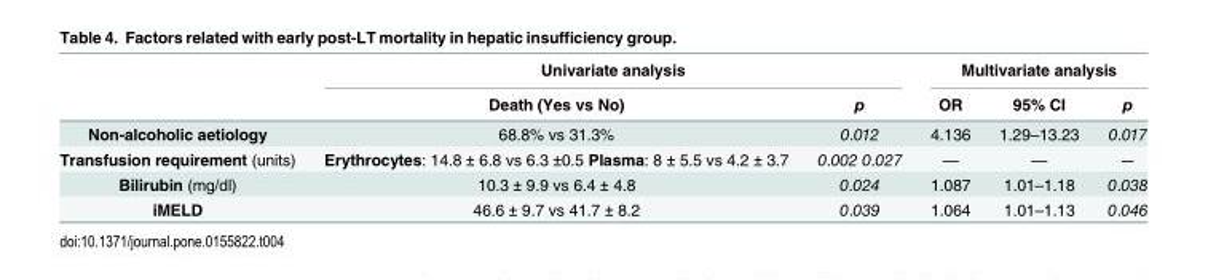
<table><thead><tr><td rowspan="2"></td><td colspan="2">Univariate analysis</td><td colspan="3">Multivariate analysis</td></tr><tr><td>Death (Yes vs No)</td><td>p</td><td>OR</td><td>95% CI</td><td>p</td></tr></thead><tbody><tr><td>Non-alcoholic aetiology</td><td>68.8% vs 31.3%</td><td>0.012</td><td>4.136</td><td>1.29–13.23</td><td>0.017</td></tr><tr><td>Transfusion requirement (units)</td><td>Erythrocytes: 14.8 ± 6.8 vs 6.3 ±0.5 Plasma: 8 ± 5.5 vs 4.2 ± 3.7</td><td>0.002 0.027</td><td>—</td><td>—</td><td>—</td></tr><tr><td>Bilirubin (mg/dl)</td><td>10.3 ± 9.9 vs 6.4 ± 4.8</td><td>0.024</td><td>1.087</td><td>1.01–1.18</td><td>0.038</td></tr><tr><td>iMELD</td><td>46.6 ± 9.7 vs 41.7 ± 8.2</td><td>0.039</td><td>1.064</td><td>1.01–1.13</td><td>0.046</td></tr></tbody></table>